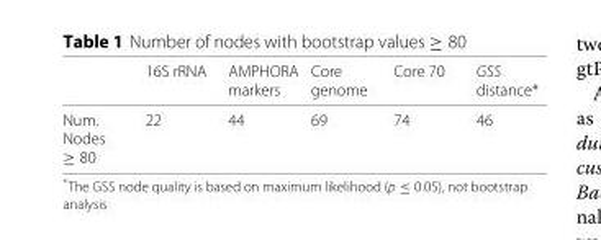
<table><thead><tr><td></td><td>16S rRNA</td><td>AMPHORA markers</td><td>Core genome</td><td>Core 70</td><td>GSS distance*</td></tr></thead><tbody><tr><td>Num. Nodes ≥ 80</td><td>22</td><td>44</td><td>69</td><td>74</td><td>46</td></tr></tbody></table>